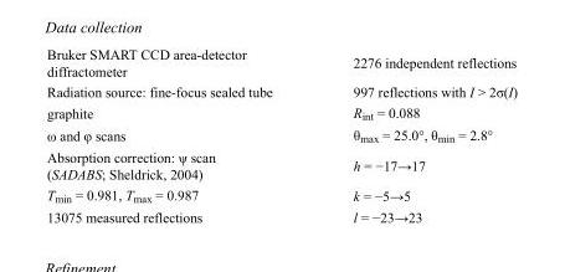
<table><tbody><tr><td>Bruker SMART CCD area-detector diffractometer</td><td>2276 independent reflections</td></tr><tr><td>Radiation source: fine-focus sealed tube</td><td>997 reflections with I &gt; 2σ(I)</td></tr><tr><td>graphite</td><td>R<sub>int</sub> = 0.088</td></tr><tr><td>ω and φ scans</td><td>θ<sub>max</sub> = 25.0°, θ<sub>min</sub> = 2.8°</td></tr><tr><td>Absorption correction: ψ scan (SADABS; Sheldrick, 2004)</td><td>h = −17→17</td></tr><tr><td>T<sub>min</sub> = 0.981, T<sub>max</sub> = 0.987</td><td>k = −5→5</td></tr><tr><td>13075 measured reflections</td><td>l = −23→23</td></tr></tbody></table>